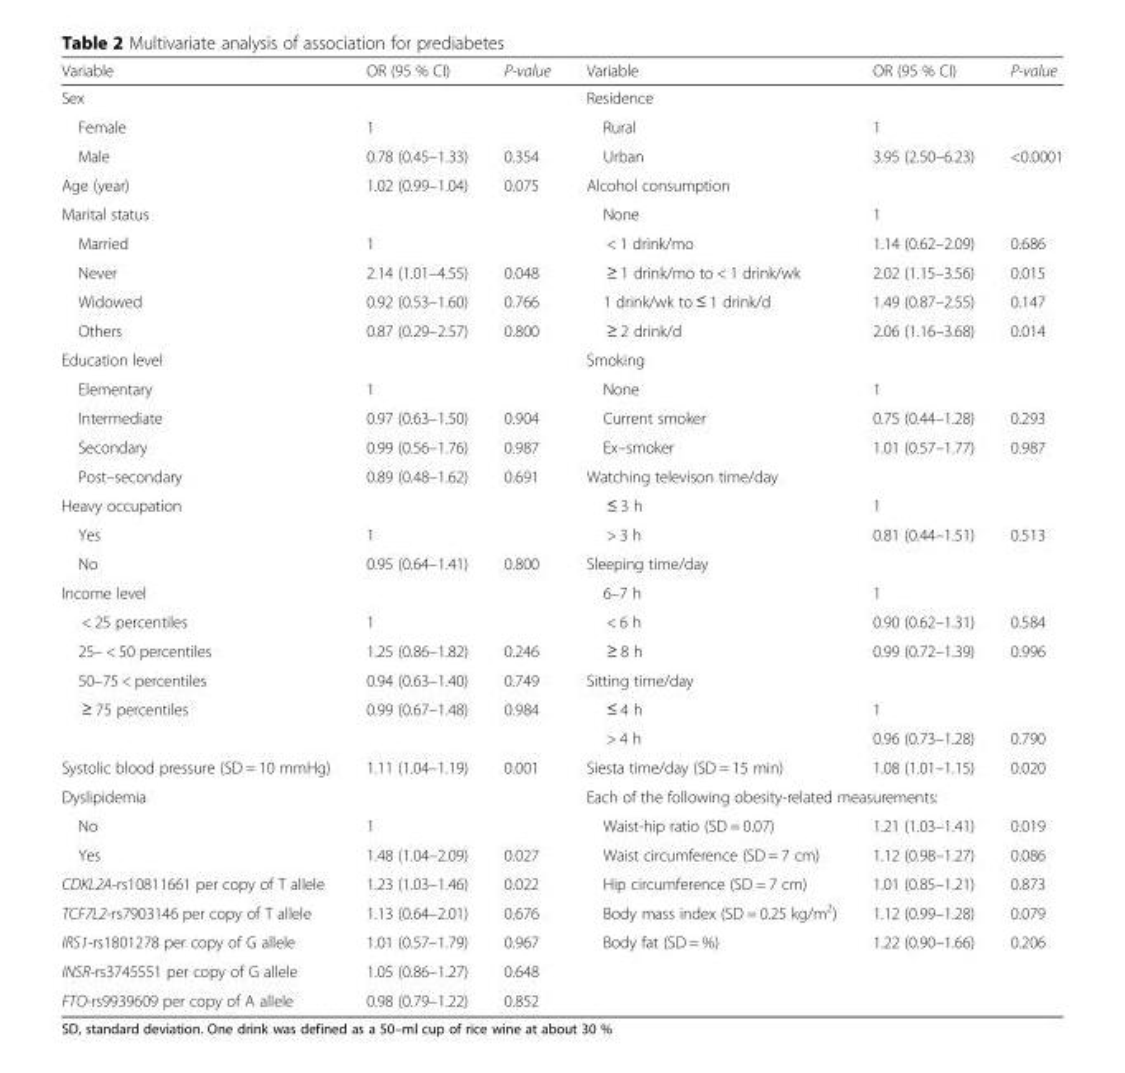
<table><thead><tr><td>Variable</td><td>OR (95 % CI)</td><td>P-value</td><td>Variable</td><td>OR (95 % CI)</td><td>P-value</td></tr></thead><tbody><tr><td colspan="3">Sex</td><td colspan="3">Residence</td></tr><tr><td>Female</td><td>1</td><td></td><td>Rural</td><td>1</td><td></td></tr><tr><td>Male</td><td>0.78 (0.45–1.33)</td><td>0.354</td><td>Urban</td><td>3.95 (2.50–6.23)</td><td>&lt;0.0001</td></tr><tr><td>Age (year)</td><td>1.02 (0.99–1.04)</td><td>0.075</td><td>Alcohol consumption</td><td></td><td></td></tr><tr><td>Marital status</td><td></td><td></td><td>None</td><td>1</td><td></td></tr><tr><td>Married</td><td>1</td><td></td><td>&lt; 1 drink/mo</td><td>1.14 (0.62–2.09)</td><td>0.686</td></tr><tr><td>Never</td><td>2.14 (1.01–4.55)</td><td>0.048</td><td>≥ 1 drink/mo to &lt; 1 drink/wk</td><td>2.02 (1.15–3.56)</td><td>0.015</td></tr><tr><td>Widowed</td><td>0.92 (0.53–1.60)</td><td>0.766</td><td>1 drink/wk to ≤ 1 drink/d</td><td>1.49 (0.87–2.55)</td><td>0.147</td></tr><tr><td>Others</td><td>0.87 (0.29–2.57)</td><td>0.800</td><td>≥ 2 drink/d</td><td>2.06 (1.16–3.68)</td><td>0.014</td></tr><tr><td>Education level</td><td></td><td></td><td>Smoking</td><td></td><td></td></tr><tr><td>Elementary</td><td>1</td><td></td><td>None</td><td>1</td><td></td></tr><tr><td>Intermediate</td><td>0.97 (0.63–1.50)</td><td>0.904</td><td>Current smoker</td><td>0.75 (0.44–1.28)</td><td>0.293</td></tr><tr><td>Secondary</td><td>0.99 (0.56–1.76)</td><td>0.987</td><td>Ex–smoker</td><td>1.01 (0.57–1.77)</td><td>0.987</td></tr><tr><td>Post–secondary</td><td>0.89 (0.48–1.62)</td><td>0.691</td><td>Watching televison time/day</td><td></td><td></td></tr><tr><td>Heavy occupation</td><td></td><td></td><td>≤ 3 h</td><td>1</td><td></td></tr><tr><td>Yes</td><td>1</td><td></td><td>&gt; 3 h</td><td>0.81 (0.44–1.51)</td><td>0.513</td></tr><tr><td>No</td><td>0.95 (0.64–1.41)</td><td>0.800</td><td>Sleeping time/day</td><td></td><td></td></tr><tr><td>Income level</td><td></td><td></td><td>6–7 h</td><td>1</td><td></td></tr><tr><td>&lt; 25 percentiles</td><td>1</td><td></td><td>&lt; 6 h</td><td>0.90 (0.62–1.31)</td><td>0.584</td></tr><tr><td>25– &lt; 50 percentiles</td><td>1.25 (0.86–1.82)</td><td>0.246</td><td>≥ 8 h</td><td>0.99 (0.72–1.39)</td><td>0.996</td></tr><tr><td>50–75 &lt; percentiles</td><td>0.94 (0.63–1.40)</td><td>0.749</td><td>Sitting time/day</td><td></td><td></td></tr><tr><td rowspan="2">≥ 75 percentiles</td><td>0.99 (0.67–1.48)</td><td>0.984</td><td>≤ 4 h</td><td>1</td><td></td></tr><tr><td></td><td></td><td>&gt; 4 h</td><td>0.96 (0.73–1.28)</td><td>0.790</td></tr><tr><td>Systolic blood pressure (SD = 10 mmHg)</td><td>1.11 (1.04–1.19)</td><td>0.001</td><td>Siesta time/day (SD = 15 min)</td><td>1.08 (1.01–1.15)</td><td>0.020</td></tr><tr><td>Dyslipidemia</td><td></td><td></td><td colspan="3">Each of the following obesity-related measurements:</td></tr><tr><td>No</td><td>1</td><td></td><td>Waist-hip ratio (SD = 0.07)</td><td>1.21 (1.03–1.41)</td><td>0.019</td></tr><tr><td>Yes</td><td>1.48 (1.04–2.09)</td><td>0.027</td><td>Waist circumference (SD = 7 cm)</td><td>1.12 (0.98–1.27)</td><td>0.086</td></tr><tr><td>CDKL2A-rs10811661 per copy of T allele</td><td>1.23 (1.03–1.46)</td><td>0.022</td><td>Hip circumference (SD = 7 cm)</td><td>1.01 (0.85–1.21)</td><td>0.873</td></tr><tr><td>TCF7L2-rs7903146 per copy of T allele</td><td>1.13 (0.64–2.01)</td><td>0.676</td><td>Body mass index (SD = 0.25 kg/m<sup>2</sup>)</td><td>1.12 (0.99–1.28)</td><td>0.079</td></tr><tr><td>IRS1-rs1801278 per copy of G allele</td><td>1.01 (0.57–1.79)</td><td>0.967</td><td>Body fat (SD = %)</td><td>1.22 (0.90–1.66)</td><td>0.206</td></tr><tr><td>INSR-rs3745551 per copy of G allele</td><td>1.05 (0.86–1.27)</td><td>0.648</td><td></td><td></td><td></td></tr><tr><td>FTO-rs9939609 per copy of A allele</td><td>0.98 (0.79–1.22)</td><td>0.852</td><td></td><td></td><td></td></tr></tbody></table>